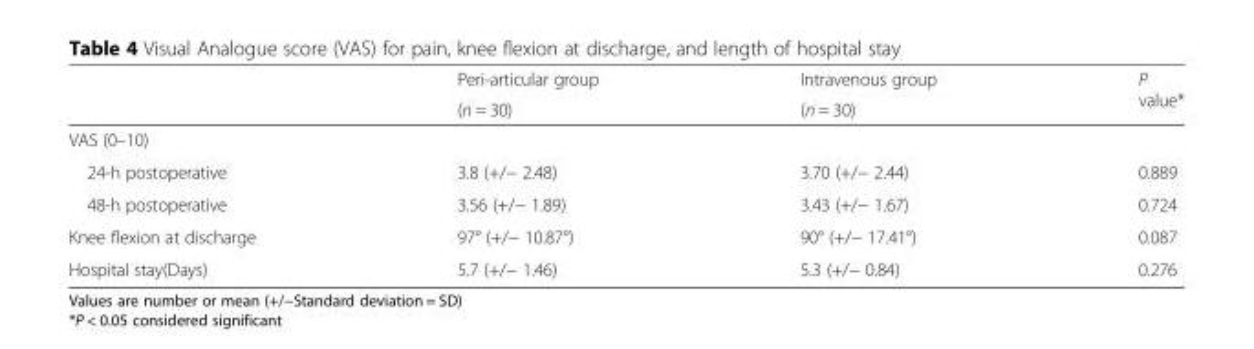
<table><thead><tr><td rowspan="2"></td><td rowspan="2">Peri-articular group (n = 30)</td><td rowspan="2">Intravenous group (n = 30)</td><td rowspan="2">P value*</td></tr><tr></tr></thead><tbody><tr><td colspan="4">VAS (0–10)</td></tr><tr><td>24-h postoperative</td><td>3.8 (+/− 2.48)</td><td>3.70 (+/− 2.44)</td><td>0.889</td></tr><tr><td>48-h postoperative</td><td>3.56 (+/− 1.89)</td><td>3.43 (+/− 1.67)</td><td>0.724</td></tr><tr><td>Knee flexion at discharge</td><td>97° (+/− 10.87°)</td><td>90° (+/− 17.41°)</td><td>0.087</td></tr><tr><td>Hospital stay(Days)</td><td>5.7 (+/− 1.46)</td><td>5.3 (+/− 0.84)</td><td>0.276</td></tr></tbody></table>